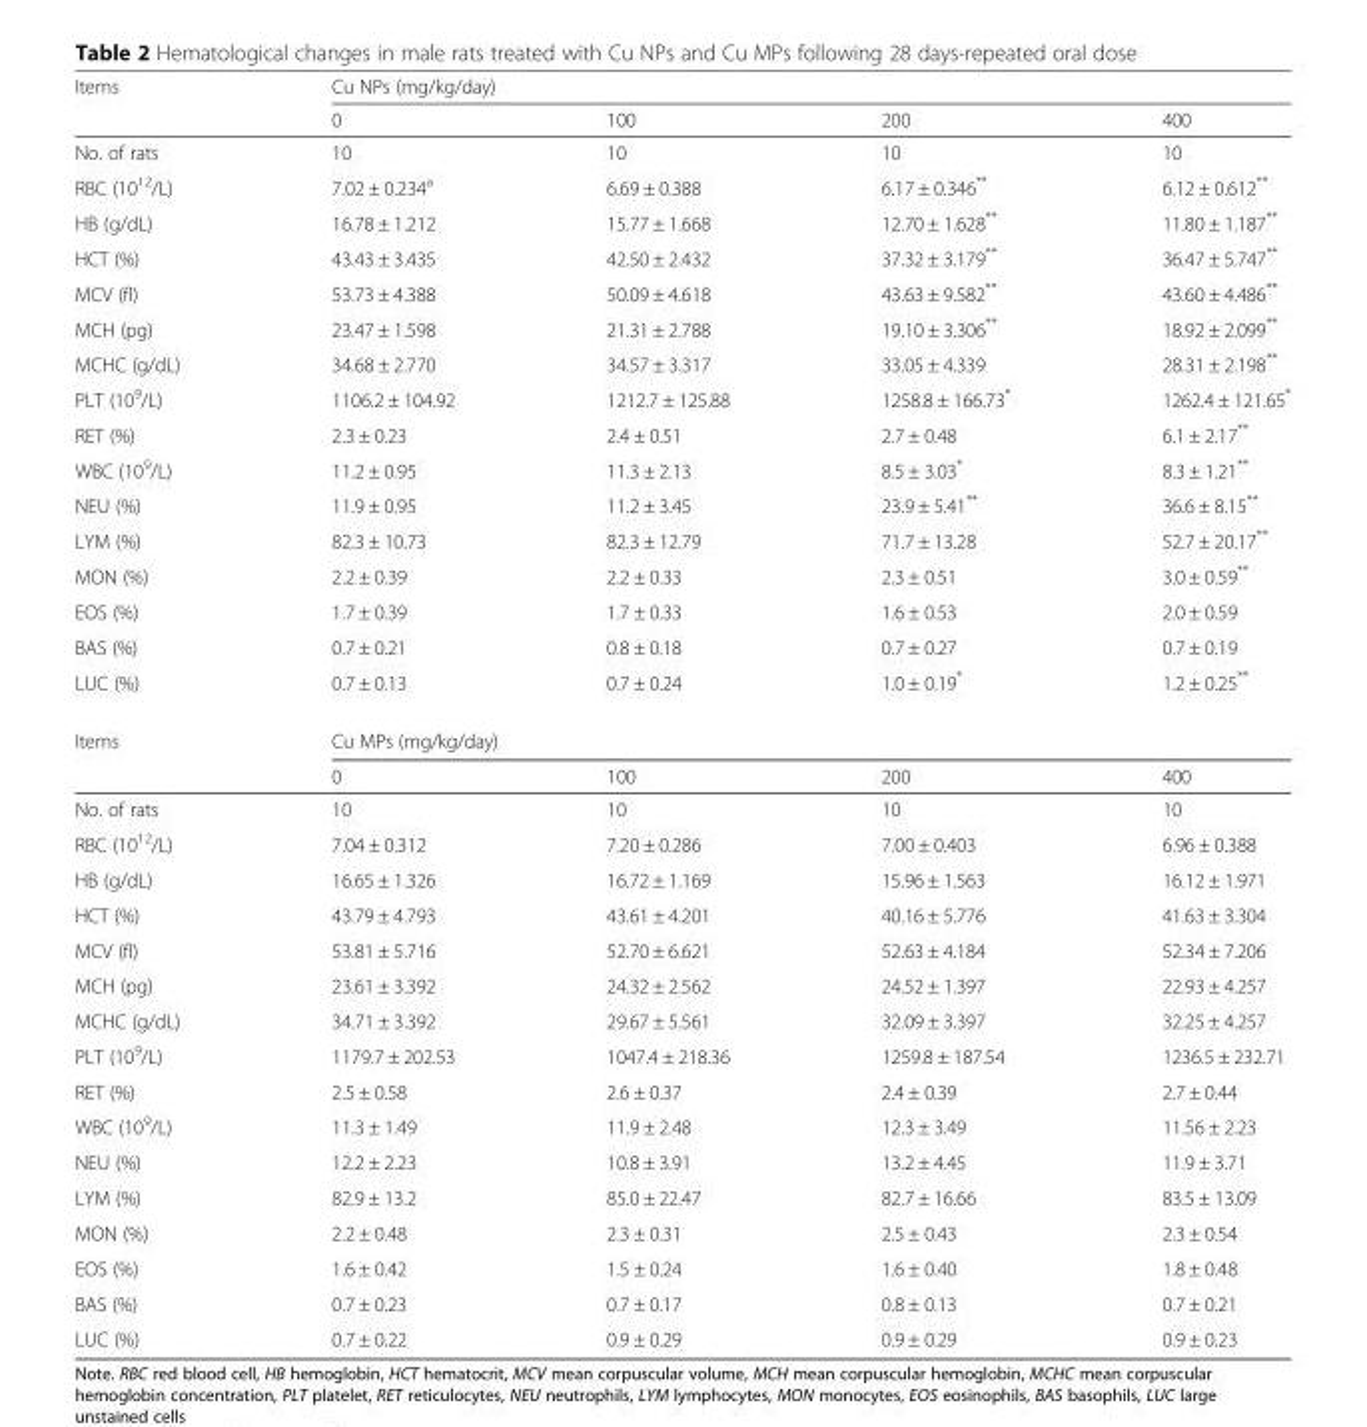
<table><tbody><tr><td rowspan="2">Items</td><td colspan="4">Cu NPs (mg/kg/day)</td></tr><tr><td>0</td><td>100</td><td>200</td><td>400</td></tr><tr><td>No. of rats</td><td>10</td><td>10</td><td>10</td><td>10</td></tr><tr><td>RBC (10<sup>12</sup>/L)</td><td>7.02 ± 0.234<sup>a</sup></td><td>6.69 ± 0.388</td><td>6.17 ± 0.346**</td><td>6.12 ± 0.612**</td></tr><tr><td>HB (g/dL)</td><td>16.78 ± 1.212</td><td>15.77 ± 1.668</td><td>12.70 ± 1.628**</td><td>11.80 ± 1.187**</td></tr><tr><td>HCT (%)</td><td>43.43 ± 3.435</td><td>42.50 ± 2.432</td><td>37.32 ± 3.179**</td><td>36.47 ± 5.747**</td></tr><tr><td>MCV (fl)</td><td>53.73 ± 4.388</td><td>50.09 ± 4.618</td><td>43.63 ± 9.582**</td><td>43.60 ± 4.486**</td></tr><tr><td>MCH (pg)</td><td>23.47 ± 1.598</td><td>21.31 ± 2.788</td><td>19.10 ± 3.306**</td><td>18.92 ± 2.099**</td></tr><tr><td>MCHC (g/dL)</td><td>34.68 ± 2.770</td><td>34.57 ± 3.317</td><td>33.05 ± 4.339</td><td>28.31 ± 2.198**</td></tr><tr><td>PLT (10<sup>9</sup>/L)</td><td>1106.2 ± 104.92</td><td>1212.7 ± 125.88</td><td>1258.8 ± 166.73*</td><td>1262.4 ± 121.65*</td></tr><tr><td>RET (%)</td><td>2.3 ± 0.23</td><td>2.4 ± 0.51</td><td>2.7 ± 0.48</td><td>6.1 ± 2.17**</td></tr><tr><td>WBC (10<sup>9</sup>/L)</td><td>11.2 ± 0.95</td><td>11.3 ± 2.13</td><td>8.5 ± 3.03*</td><td>8.3 ± 1.21**</td></tr><tr><td>NEU (%)</td><td>11.9 ± 0.95</td><td>11.2 ± 3.45</td><td>23.9 ± 5.41**</td><td>36.6 ± 8.15**</td></tr><tr><td>LYM (%)</td><td>82.3 ± 10.73</td><td>82.3 ± 12.79</td><td>71.7 ± 13.28</td><td>52.7 ± 20.17**</td></tr><tr><td>MON (%)</td><td>2.2 ± 0.39</td><td>2.2 ± 0.33</td><td>2.3 ± 0.51</td><td>3.0 ± 0.59**</td></tr><tr><td>EOS (%)</td><td>1.7 ± 0.39</td><td>1.7 ± 0.33</td><td>1.6 ± 0.53</td><td>2.0 ± 0.59</td></tr><tr><td>BAS (%)</td><td>0.7 ± 0.21</td><td>0.8 ± 0.18</td><td>0.7 ± 0.27</td><td>0.7 ± 0.19</td></tr><tr><td>LUC (%)</td><td>0.7 ± 0.13</td><td>0.7 ± 0.24</td><td>1.0 ± 0.19*</td><td>1.2 ± 0.25**</td></tr><tr><td rowspan="2">Items</td><td colspan="4">Cu MPs (mg/kg/day)</td></tr><tr><td>0</td><td>100</td><td>200</td><td>400</td></tr><tr><td>No. of rats</td><td>10</td><td>10</td><td>10</td><td>10</td></tr><tr><td>RBC (10<sup>12</sup>/L)</td><td>7.04 ± 0.312</td><td>7.20 ± 0.286</td><td>7.00 ± 0.403</td><td>6.96 ± 0.388</td></tr><tr><td>HB (g/dL)</td><td>16.65 ± 1.326</td><td>16.72 ± 1.169</td><td>15.96 ± 1.563</td><td>16.12 ± 1.971</td></tr><tr><td>HCT (%)</td><td>43.79 ± 4.793</td><td>43.61 ± 4.201</td><td>40.16 ± 5.776</td><td>41.63 ± 3.304</td></tr><tr><td>MCV (fl)</td><td>53.81 ± 5.716</td><td>52.70 ± 6.621</td><td>52.63 ± 4.184</td><td>52.34 ± 7.206</td></tr><tr><td>MCH (pg)</td><td>23.61 ± 3.392</td><td>24.32 ± 2.562</td><td>24.52 ± 1.397</td><td>22.93 ± 4.257</td></tr><tr><td>MCHC (g/dL)</td><td>34.71 ± 3.392</td><td>29.67 ± 5.561</td><td>32.09 ± 3.397</td><td>32.25 ± 4.257</td></tr><tr><td>PLT (10<sup>9</sup>/L)</td><td>1179.7 ± 202.53</td><td>1047.4 ± 218.36</td><td>1259.8 ± 187.54</td><td>1236.5 ± 232.71</td></tr><tr><td>RET (%)</td><td>2.5 ± 0.58</td><td>2.6 ± 0.37</td><td>2.4 ± 0.39</td><td>2.7 ± 0.44</td></tr><tr><td>WBC (10<sup>9</sup>/L)</td><td>11.3 ± 1.49</td><td>11.9 ± 2.48</td><td>12.3 ± 3.49</td><td>11.56 ± 2.23</td></tr><tr><td>NEU (%)</td><td>12.2 ± 2.23</td><td>10.8 ± 3.91</td><td>13.2 ± 4.45</td><td>11.9 ± 3.71</td></tr><tr><td>LYM (%)</td><td>82.9 ± 13.2</td><td>85.0 ± 22.47</td><td>82.7 ± 16.66</td><td>83.5 ± 13.09</td></tr><tr><td>MON (%)</td><td>2.2 ± 0.48</td><td>2.3 ± 0.31</td><td>2.5 ± 0.43</td><td>2.3 ± 0.54</td></tr><tr><td>EOS (%)</td><td>1.6 ± 0.42</td><td>1.5 ± 0.24</td><td>1.6 ± 0.40</td><td>1.8 ± 0.48</td></tr><tr><td>BAS (%)</td><td>0.7 ± 0.23</td><td>0.7 ± 0.17</td><td>0.8 ± 0.13</td><td>0.7 ± 0.21</td></tr><tr><td>LUC (%)</td><td>0.7 ± 0.22</td><td>0.9 ± 0.29</td><td>0.9 ± 0.29</td><td>0.9 ± 0.23</td></tr></tbody></table>